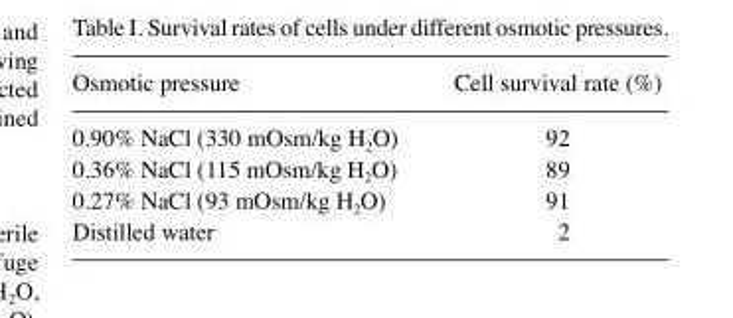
<table><thead><tr><td>Osmotic pressure</td><td>Cell survival rate (%)</td></tr></thead><tbody><tr><td>0.90% NaCl (330 mOsm/kg H<sub>2</sub>O)</td><td>92</td></tr><tr><td>0.36% NaCl (115 mOsm/kg H<sub>2</sub>O)</td><td>89</td></tr><tr><td>0.27% NaCl (93 mOsm/kg H<sub>2</sub>O)</td><td>91</td></tr><tr><td>Distilled water</td><td>2</td></tr></tbody></table>